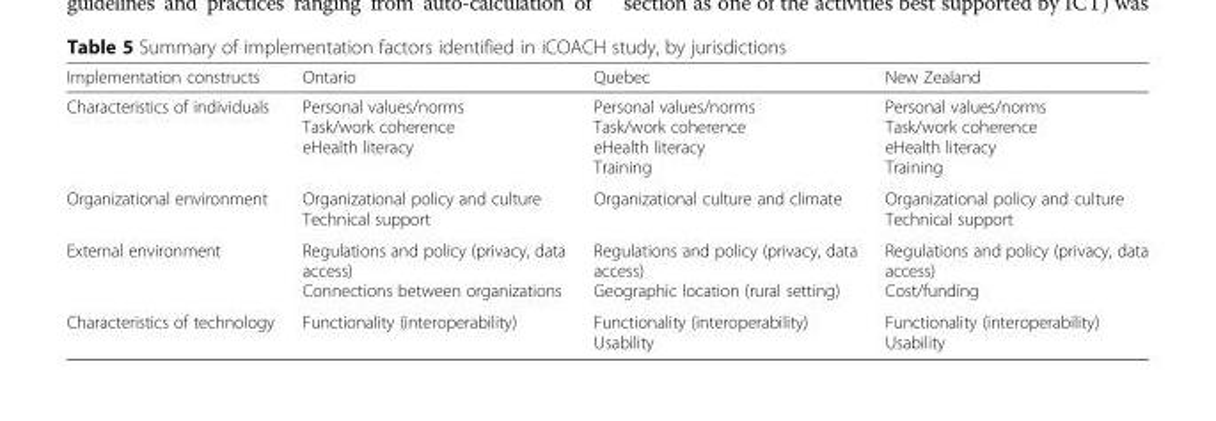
<table><thead><tr><td>Implementation constructs</td><td>Ontario</td><td>Quebec</td><td>New Zealand</td></tr></thead><tbody><tr><td>Characteristics of individuals</td><td>Personal values/norms Task/work coherence eHealth literacy</td><td>Personal values/norms Task/work coherence eHealth literacy Training</td><td>Personal values/norms Task/work coherence eHealth literacy Training</td></tr><tr><td>Organizational environment</td><td>Organizational policy and culture Technical support</td><td>Organizational culture and climate</td><td>Organizational policy and culture Technical support</td></tr><tr><td>External environment</td><td>Regulations and policy (privacy, data access) Connections between organizations</td><td>Regulations and policy (privacy, data access) Geographic location (rural setting)</td><td>Regulations and policy (privacy, data access) Cost/funding</td></tr><tr><td>Characteristics of technology</td><td>Functionality (interoperability)</td><td>Functionality (interoperability) Usability</td><td>Functionality (interoperability) Usability</td></tr></tbody></table>